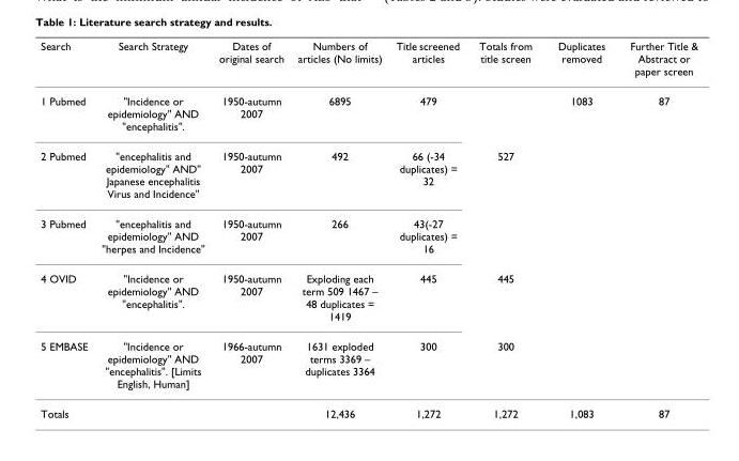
<table><thead><tr><td>Search</td><td>Search Strategy</td><td>Dates of original search</td><td>Numbers of articles (No limits)</td><td>Title screened articles</td><td>Totals from title screen</td><td>Duplicates removed</td><td>Further Title &amp; Abstract or paper screen</td></tr></thead><tbody><tr><td>1 Pubmed</td><td>&quot;Incidence or epidemiology&quot; AND &quot;encephalitis&quot;.</td><td>1950-autumn 2007</td><td>6895</td><td>479</td><td></td><td>1083</td><td>87</td></tr><tr><td>2 Pubmed</td><td>&quot;encephalitis and epidemiology&quot; AND&quot; Japanese encephalitis Virus and Incidence&quot;</td><td>1950-autumn 2007</td><td>492</td><td>66 (-34 duplicates) = 32</td><td>527</td><td></td><td></td></tr><tr><td>3 Pubmed</td><td>&quot;encephalitis and epidemiology&quot; AND &quot;herpes and Incidence&quot;</td><td>1950-autumn 2007</td><td>266</td><td>43(-27 duplicates) = 16</td><td></td><td></td><td></td></tr><tr><td>4 OVID</td><td>&quot;Incidence or epidemiology&quot; AND &quot;encephalitis&quot;.</td><td>1950-autumn 2007</td><td>Exploding each term 509 1467 – 48 duplicates = 1419</td><td>445</td><td>445</td><td></td><td></td></tr><tr><td>5 EMBASE</td><td>&quot;Incidence or epidemiology&quot; AND &quot;encephalitis&quot;. [Limits English, Human]</td><td>1966-autumn 2007</td><td>1631 exploded terms 3369 – duplicates 3364</td><td>300</td><td>300</td><td></td><td></td></tr><tr><td>Totals</td><td></td><td></td><td>12,436</td><td>1,272</td><td>1,272</td><td>1,083</td><td>87</td></tr></tbody></table>